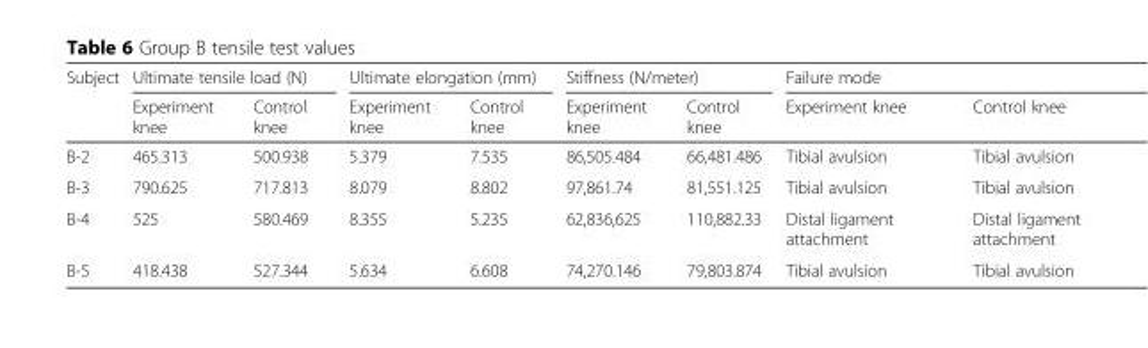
<table><thead><tr><td rowspan="2">Subject</td><td colspan="2">Ultimate tensile load (N)</td><td colspan="2">Ultimate elongation (mm)</td><td colspan="2">Stiffness (N/meter)</td><td colspan="2">Failure mode</td></tr><tr><td>Experiment knee</td><td>Control knee</td><td>Experiment knee</td><td>Control knee</td><td>Experiment knee</td><td>Control knee</td><td>Experiment knee</td><td>Control knee</td></tr></thead><tbody><tr><td>B-2</td><td>465.313</td><td>500.938</td><td>5.379</td><td>7.535</td><td>86,505.484</td><td>66,481.486</td><td>Tibial avulsion</td><td>Tibial avulsion</td></tr><tr><td>B-3</td><td>790.625</td><td>717.813</td><td>8.079</td><td>8.802</td><td>97,861.74</td><td>81,551.125</td><td>Tibial avulsion</td><td>Tibial avulsion</td></tr><tr><td>B-4</td><td>525</td><td>580.469</td><td>8.355</td><td>5.235</td><td>62,836,625</td><td>110,882.33</td><td>Distal ligament attachment</td><td>Distal ligament attachment</td></tr><tr><td>B-5</td><td>418.438</td><td>527.344</td><td>5.634</td><td>6.608</td><td>74,270.146</td><td>79,803.874</td><td>Tibial avulsion</td><td>Tibial avulsion</td></tr></tbody></table>